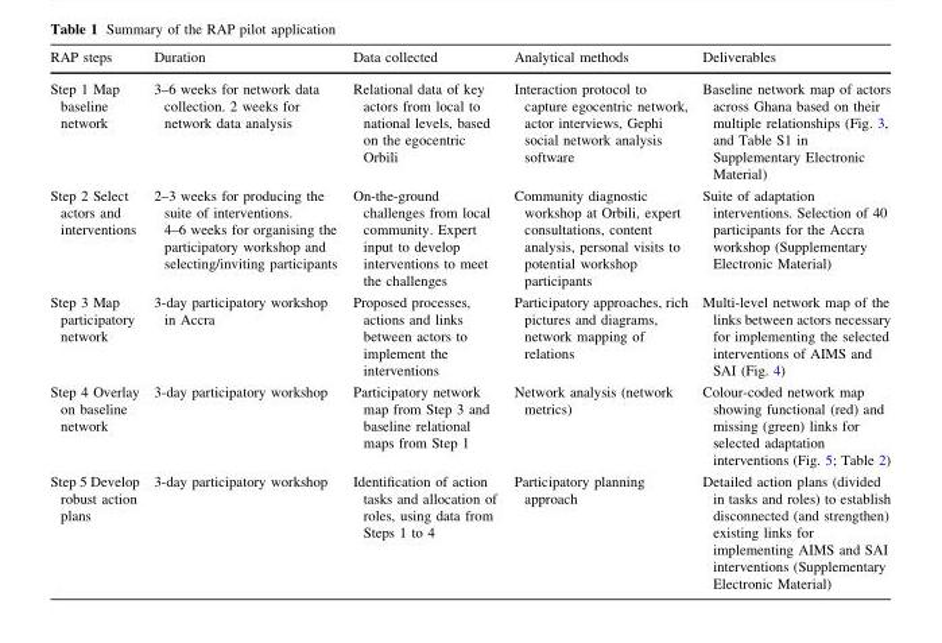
<table><thead><tr><td>RAP steps</td><td>Duration</td><td>Data collected</td><td>Analytical methods</td><td>Deliverables</td></tr></thead><tbody><tr><td>Step 1 Map baseline network</td><td>3–6 weeks for network data collection. 2 weeks for network data analysis</td><td>Relational data of key actors from local to national levels, based on the egocentric Orbili</td><td>Interaction protocol to capture egocentric network, actor interviews, Gephi social network analysis software</td><td>Baseline network map of actors across Ghana based on their multiple relationships (Fig. 3, and Table S1 in Supplementary Electronic Material)</td></tr><tr><td>Step 2 Select actors and interventions</td><td>2–3 weeks for producing the suite of interventions. 4–6 weeks for organising the participatory workshop and selecting/inviting participants</td><td>On-the-ground challenges from local community. Expert input to develop interventions to meet the challenges</td><td>Community diagnostic workshop at Orbili, expert consultations, content analysis, personal visits to potential workshop participants</td><td>Suite of adaptation interventions. Selection of 40 participants for the Accra workshop (Supplementary Electronic Material)</td></tr><tr><td>Step 3 Map participatory network</td><td>3-day participatory workshop in Accra</td><td>Proposed processes, actions and links between actors to implement the interventions</td><td>Participatory approaches, rich pictures and diagrams, network mapping of relations</td><td>Multi-level network map of the links between actors necessary for implementing the selected interventions of AIMS and SAI (Fig. 4)</td></tr><tr><td>Step 4 Overlay on baseline network</td><td>3-day participatory workshop</td><td>Participatory network map from Step 3 and baseline relational maps from Step 1</td><td>Network analysis (network metrics)</td><td>Colour-coded network map showing functional (red) and missing (green) links for selected adaptation interventions (Fig. 5; Table 2)</td></tr><tr><td>Step 5 Develop robust action plans</td><td>3-day participatory workshop</td><td>Identification of action tasks and allocation of roles, using data from Steps 1 to 4</td><td>Participatory planning approach</td><td>Detailed action plans (divided in tasks and roles) to establish disconnected (and strengthen) existing links for implementing AIMS and SAI interventions (Supplementary Electronic Material)</td></tr></tbody></table>